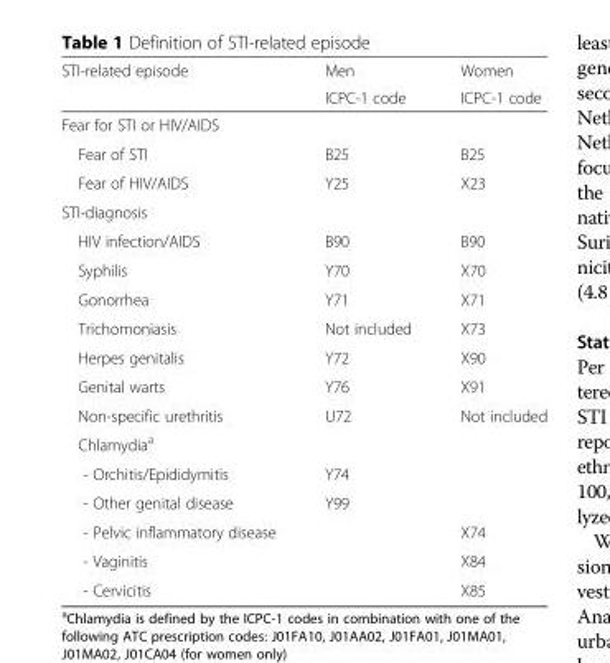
<table><thead><tr><td rowspan="2">STI-related episode</td><td rowspan="2">Men ICPC-1 code</td><td rowspan="2">Women ICPC-1 code</td></tr><tr></tr></thead><tbody><tr><td colspan="3">Fear for STI or HIV/AIDS</td></tr><tr><td>Fear of STI</td><td>B25</td><td>B25</td></tr><tr><td>Fear of HIV/AIDS</td><td>Y25</td><td>X23</td></tr><tr><td colspan="3">STI-diagnosis</td></tr><tr><td>HIV infection/AIDS</td><td>B90</td><td>B90</td></tr><tr><td>Syphilis</td><td>Y70</td><td>X70</td></tr><tr><td>Gonorrhea</td><td>Y71</td><td>X71</td></tr><tr><td>Trichomoniasis</td><td>Not included</td><td>X73</td></tr><tr><td>Herpes genitalis</td><td>Y72</td><td>X90</td></tr><tr><td>Genital warts</td><td>Y76</td><td>X91</td></tr><tr><td>Non-specific urethritis</td><td>U72</td><td>Not included</td></tr><tr><td colspan="3">Chlamydia<sup>a</sup></td></tr><tr><td>- Orchitis/Epididymitis</td><td>Y74</td><td></td></tr><tr><td>- Other genital disease</td><td>Y99</td><td></td></tr><tr><td>- Pelvic inflammatory disease</td><td></td><td>X74</td></tr><tr><td>- Vaginitis</td><td></td><td>X84</td></tr><tr><td>- Cervicitis</td><td></td><td>X85</td></tr></tbody></table>